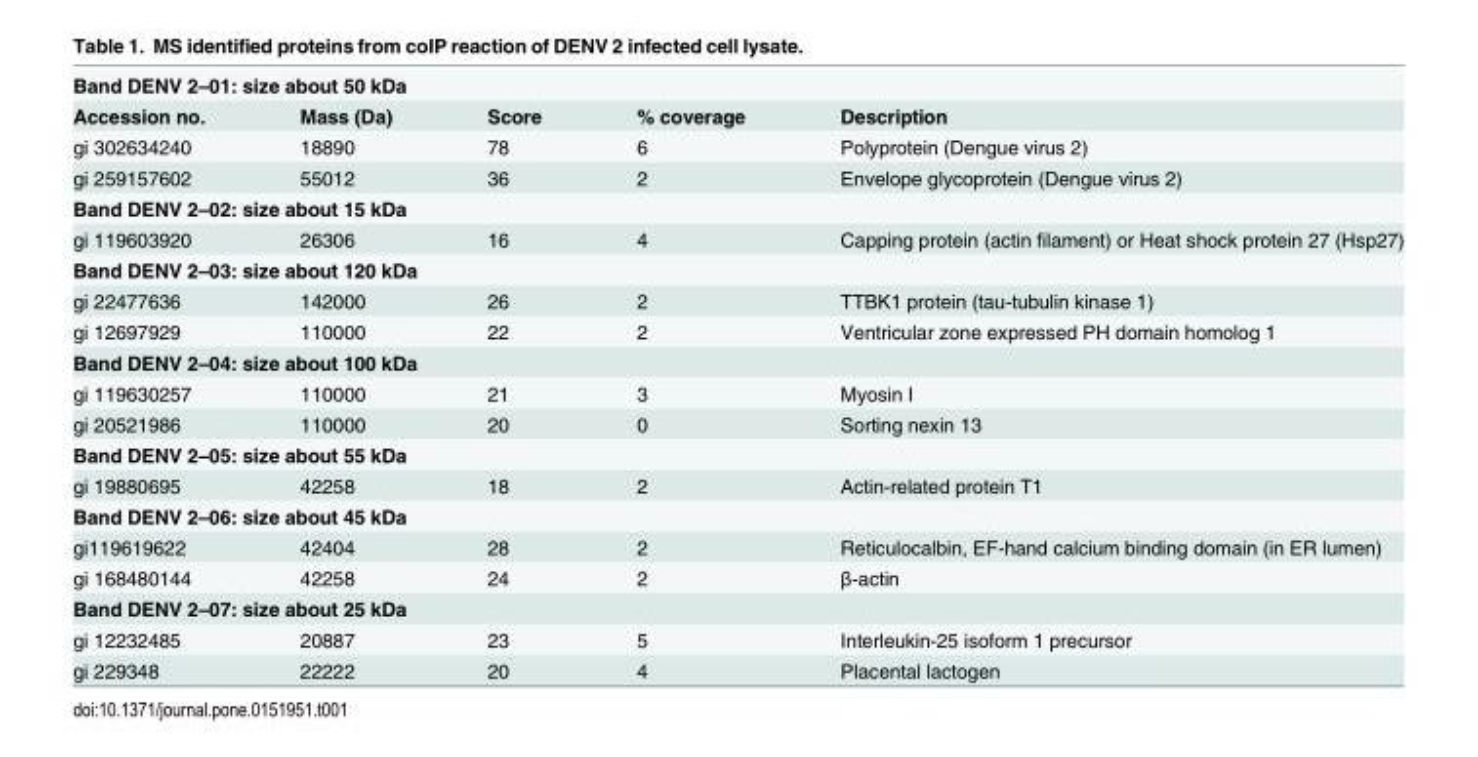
<table><tbody><tr><td colspan="5">Band DENV 2–01: size about 50 kDa</td></tr><tr><td>Accession no.</td><td>Mass (Da)</td><td>Score</td><td>% coverage</td><td>Description</td></tr><tr><td>gi 302634240</td><td>18890</td><td>78</td><td>6</td><td>Polyprotein (Dengue virus 2)</td></tr><tr><td>gi 259157602</td><td>55012</td><td>36</td><td>2</td><td>Envelope glycoprotein (Dengue virus 2)</td></tr><tr><td colspan="5">Band DENV 2–02: size about 15 kDa</td></tr><tr><td>gi 119603920</td><td>26306</td><td>16</td><td>4</td><td>Capping protein (actin filament) or Heat shock protein 27 (Hsp27)</td></tr><tr><td colspan="5">Band DENV 2–03: size about 120 kDa</td></tr><tr><td>gi 22477636</td><td>142000</td><td>26</td><td>2</td><td>TTBK1 protein (tau-tubulin kinase 1)</td></tr><tr><td>gi 12697929</td><td>110000</td><td>22</td><td>2</td><td>Ventricular zone expressed PH domain homolog 1</td></tr><tr><td colspan="5">Band DENV 2–04: size about 100 kDa</td></tr><tr><td>gi 119630257</td><td>110000</td><td>21</td><td>3</td><td>Myosin I</td></tr><tr><td>gi 20521986</td><td>110000</td><td>20</td><td>0</td><td>Sorting nexin 13</td></tr><tr><td colspan="5">Band DENV 2–05: size about 55 kDa</td></tr><tr><td>gi 19880695</td><td>42258</td><td>18</td><td>2</td><td>Actin-related protein T1</td></tr><tr><td colspan="5">Band DENV 2–06: size about 45 kDa</td></tr><tr><td>gi119619622</td><td>42404</td><td>28</td><td>2</td><td>Reticulocalbin, EF-hand calcium binding domain (in ER lumen)</td></tr><tr><td>gi 168480144</td><td>42258</td><td>24</td><td>2</td><td>β-actin</td></tr><tr><td colspan="5">Band DENV 2–07: size about 25 kDa</td></tr><tr><td>gi 12232485</td><td>20887</td><td>23</td><td>5</td><td>Interleukin-25 isoform 1 precursor</td></tr><tr><td>gi 229348</td><td>22222</td><td>20</td><td>4</td><td>Placental lactogen</td></tr></tbody></table>